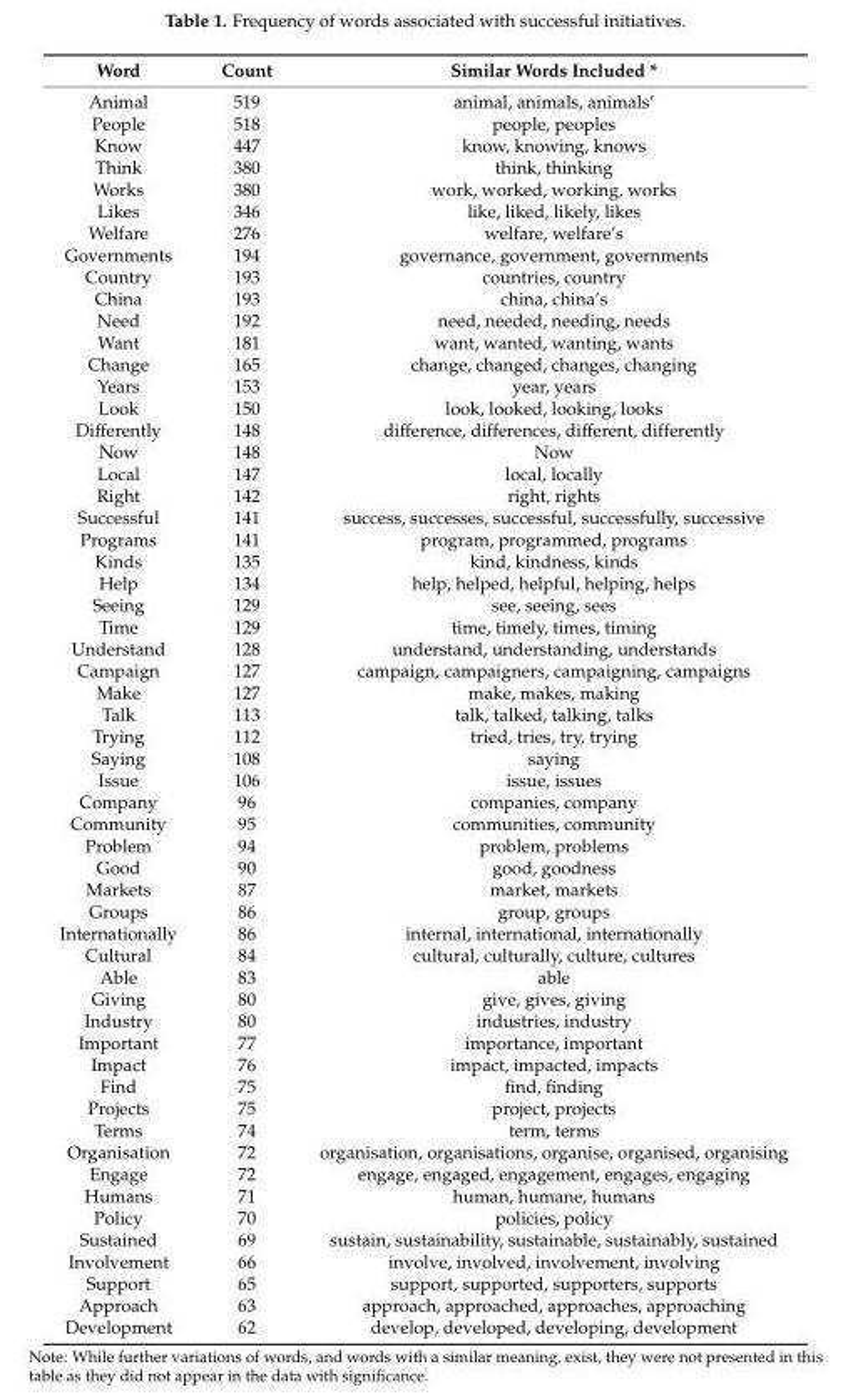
<table><thead><tr><td>Word</td><td>Count</td><td>Similar Words Included *</td></tr></thead><tbody><tr><td>Animal</td><td>519</td><td>animal, animals, animals’</td></tr><tr><td>People</td><td>518</td><td>people, peoples</td></tr><tr><td>Know</td><td>447</td><td>know, knowing, knows</td></tr><tr><td>Think</td><td>380</td><td>think, thinking</td></tr><tr><td>Works</td><td>380</td><td>work, worked, working, works</td></tr><tr><td>Likes</td><td>346</td><td>like, liked, likely, likes</td></tr><tr><td>Welfare</td><td>276</td><td>welfare, welfare’s</td></tr><tr><td>Governments</td><td>194</td><td>governance, government, governments</td></tr><tr><td>Country</td><td>193</td><td>countries, country</td></tr><tr><td>China</td><td>193</td><td>china, china’s</td></tr><tr><td>Need</td><td>192</td><td>need, needed, needing, needs</td></tr><tr><td>Want</td><td>181</td><td>want, wanted, wanting, wants</td></tr><tr><td>Change</td><td>165</td><td>change, changed, changes, changing</td></tr><tr><td>Years</td><td>153</td><td>year, years</td></tr><tr><td>Look</td><td>150</td><td>look, looked, looking, looks</td></tr><tr><td>Differently</td><td>148</td><td>difference, differences, different, differently</td></tr><tr><td>Now</td><td>148</td><td>Now</td></tr><tr><td>Local</td><td>147</td><td>local, locally</td></tr><tr><td>Right</td><td>142</td><td>right, rights</td></tr><tr><td>Successful</td><td>141</td><td>success, successes, successful, successfully, successive</td></tr><tr><td>Programs</td><td>141</td><td>program, programmed, programs</td></tr><tr><td>Kinds</td><td>135</td><td>kind, kindness, kinds</td></tr><tr><td>Help</td><td>134</td><td>help, helped, helpful, helping, helps</td></tr><tr><td>Seeing</td><td>129</td><td>see, seeing, sees</td></tr><tr><td>Time</td><td>129</td><td>time, timely, times, timing</td></tr><tr><td>Understand</td><td>128</td><td>understand, understanding, understands</td></tr><tr><td>Campaign</td><td>127</td><td>campaign, campaigners, campaigning, campaigns</td></tr><tr><td>Make</td><td>127</td><td>make, makes, making</td></tr><tr><td>Talk</td><td>113</td><td>talk, talked, talking, talks</td></tr><tr><td>Trying</td><td>112</td><td>tried, tries, try, trying</td></tr><tr><td>Saying</td><td>108</td><td>saying</td></tr><tr><td>Issue</td><td>106</td><td>issue, issues</td></tr><tr><td>Company</td><td>96</td><td>companies, company</td></tr><tr><td>Community</td><td>95</td><td>communities, community</td></tr><tr><td>Problem</td><td>94</td><td>problem, problems</td></tr><tr><td>Good</td><td>90</td><td>good, goodness</td></tr><tr><td>Markets</td><td>87</td><td>market, markets</td></tr><tr><td>Groups</td><td>86</td><td>group, groups</td></tr><tr><td>Internationally</td><td>86</td><td>internal, international, internationally</td></tr><tr><td>Cultural</td><td>84</td><td>cultural, culturally, culture, cultures</td></tr><tr><td>Able</td><td>83</td><td>able</td></tr><tr><td>Giving</td><td>80</td><td>give, gives, giving</td></tr><tr><td>Industry</td><td>80</td><td>industries, industry</td></tr><tr><td>Important</td><td>77</td><td>importance, important</td></tr><tr><td>Impact</td><td>76</td><td>impact, impacted, impacts</td></tr><tr><td>Find</td><td>75</td><td>find, finding</td></tr><tr><td>Projects</td><td>75</td><td>project, projects</td></tr><tr><td>Terms</td><td>74</td><td>term, terms</td></tr><tr><td>Organisation</td><td>72</td><td>organisation, organisations, organise, organised, organising</td></tr><tr><td>Engage</td><td>72</td><td>engage, engaged, engagement, engages, engaging</td></tr><tr><td>Humans</td><td>71</td><td>human, humane, humans</td></tr><tr><td>Policy</td><td>70</td><td>policies, policy</td></tr><tr><td>Sustained</td><td>69</td><td>sustain, sustainability, sustainable, sustainably, sustained</td></tr><tr><td>Involvement</td><td>66</td><td>involve, involved, involvement, involving</td></tr><tr><td>Support</td><td>65</td><td>support, supported, supporters, supports</td></tr><tr><td>Approach</td><td>63</td><td>approach, approached, approaches, approaching</td></tr><tr><td>Development</td><td>62</td><td>develop, developed, developing, development</td></tr></tbody></table>